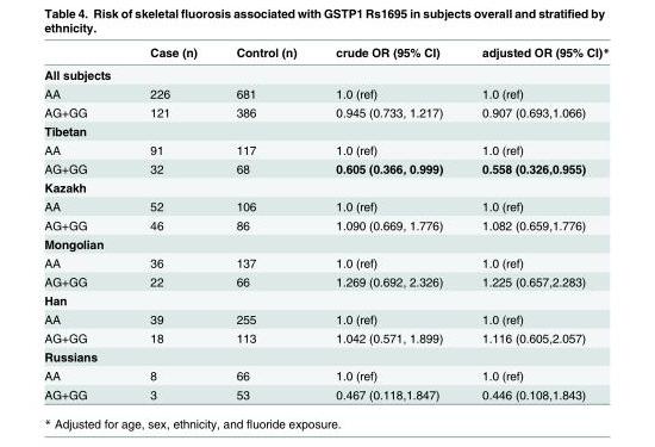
<table><thead><tr><td></td><td>Case (n)</td><td>Control (n)</td><td>crude OR (95% CI)</td><td>adjusted OR (95% CI)*</td></tr></thead><tbody><tr><td colspan="5">All subjects</td></tr><tr><td>AA</td><td>226</td><td>681</td><td>1.0 (ref)</td><td>1.0 (ref)</td></tr><tr><td>AG+GG</td><td>121</td><td>386</td><td>0.945 (0.733, 1.217)</td><td>0.907 (0.693,1.066)</td></tr><tr><td colspan="5">Tibetan</td></tr><tr><td>AA</td><td>91</td><td>117</td><td>1.0 (ref)</td><td>1.0 (ref)</td></tr><tr><td>AG+GG</td><td>32</td><td>68</td><td>0.605 (0.366, 0.999)</td><td>0.558 (0.326,0.955)</td></tr><tr><td colspan="5">Kazakh</td></tr><tr><td>AA</td><td>52</td><td>106</td><td>1.0 (ref)</td><td>1.0 (ref)</td></tr><tr><td>AG+GG</td><td>46</td><td>86</td><td>1.090 (0.669, 1.776)</td><td>1.082 (0.659,1.776)</td></tr><tr><td colspan="5">Mongolian</td></tr><tr><td>AA</td><td>36</td><td>137</td><td>1.0 (ref)</td><td>1.0 (ref)</td></tr><tr><td>AG+GG</td><td>22</td><td>66</td><td>1.269 (0.692, 2.326)</td><td>1.225 (0.657,2.283)</td></tr><tr><td colspan="5">Han</td></tr><tr><td>AA</td><td>39</td><td>255</td><td>1.0 (ref)</td><td>1.0 (ref)</td></tr><tr><td>AG+GG</td><td>18</td><td>113</td><td>1.042 (0.571, 1.899)</td><td>1.116 (0.605,2.057)</td></tr><tr><td colspan="5">Russians</td></tr><tr><td>AA</td><td>8</td><td>66</td><td>1.0 (ref)</td><td>1.0 (ref)</td></tr><tr><td>AG+GG</td><td>3</td><td>53</td><td>0.467 (0.118,1.847)</td><td>0.446 (0.108,1.843)</td></tr></tbody></table>